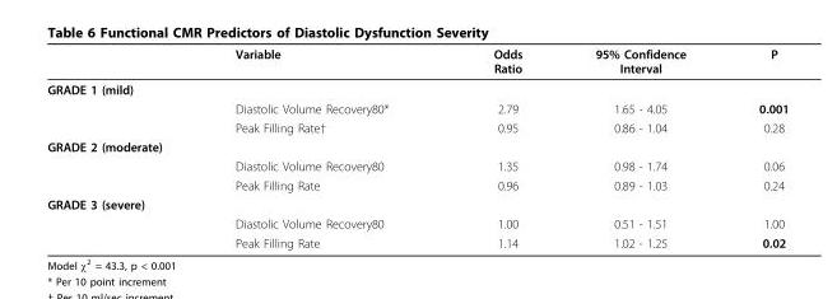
<table><thead><tr><td></td><td>Variable</td><td>Odds Ratio</td><td>95% Confidence Interval</td><td>P</td></tr></thead><tbody><tr><td colspan="5">GRADE 1 (mild)</td></tr><tr><td></td><td>Diastolic Volume Recovery80*</td><td>2.79</td><td>1.65 - 4.05</td><td>0.001</td></tr><tr><td></td><td>Peak Filling Rate†</td><td>0.95</td><td>0.86 - 1.04</td><td>0.28</td></tr><tr><td colspan="5">GRADE 2 (moderate)</td></tr><tr><td></td><td>Diastolic Volume Recovery80</td><td>1.35</td><td>0.98 - 1.74</td><td>0.06</td></tr><tr><td></td><td>Peak Filling Rate</td><td>0.96</td><td>0.89 - 1.03</td><td>0.24</td></tr><tr><td colspan="5">GRADE 3 (severe)</td></tr><tr><td></td><td>Diastolic Volume Recovery80</td><td>1.00</td><td>0.51 - 1.51</td><td>1.00</td></tr><tr><td></td><td>Peak Filling Rate</td><td>1.14</td><td>1.02 - 1.25</td><td>0.02</td></tr></tbody></table>